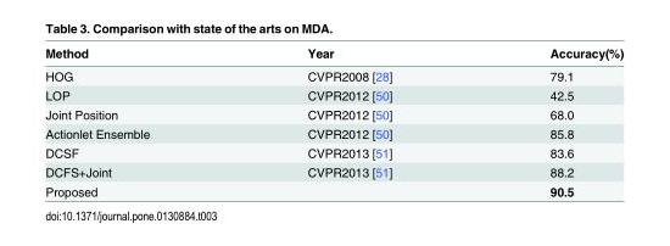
<table><thead><tr><td>Method</td><td>Year</td><td>Accuracy(%)</td></tr></thead><tbody><tr><td>HOG</td><td>CVPR2008 [28]</td><td>79.1</td></tr><tr><td>LOP</td><td>CVPR2012 [50]</td><td>42.5</td></tr><tr><td>Joint Position</td><td>CVPR2012 [50]</td><td>68.0</td></tr><tr><td>Actionlet Ensemble</td><td>CVPR2012 [50]</td><td>85.8</td></tr><tr><td>DCSF</td><td>CVPR2013 [51]</td><td>83.6</td></tr><tr><td>DCFS+Joint</td><td>CVPR2013 [51]</td><td>88.2</td></tr><tr><td>Proposed</td><td></td><td>90.5</td></tr></tbody></table>